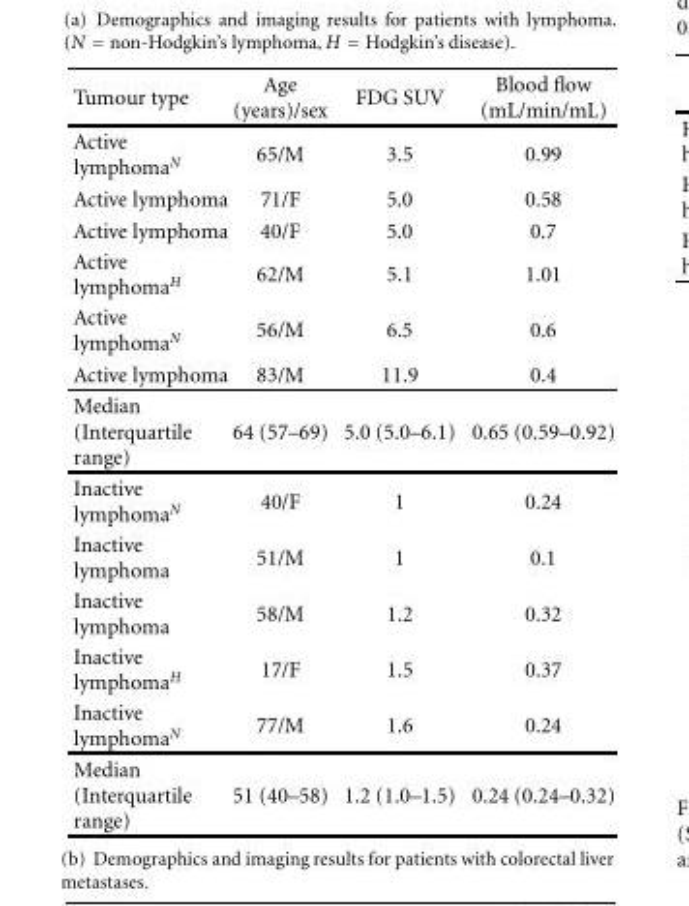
<table><thead><tr><td>Tumour type</td><td>Age (years)/sex</td><td>FDG SUV</td><td>Blood flow (mL/min/mL)</td></tr></thead><tbody><tr><td>Active lymphoma<sup>N</sup></td><td>65/M</td><td>3.5</td><td>0.99</td></tr><tr><td>Active lymphoma</td><td>71/F</td><td>5.0</td><td>0.58</td></tr><tr><td>Active lymphoma</td><td>40/F</td><td>5.0</td><td>0.7</td></tr><tr><td>Active lymphoma<sup>H</sup></td><td>62/M</td><td>5.1</td><td>1.01</td></tr><tr><td>Active lymphoma<sup>N</sup></td><td>56/M</td><td>6.5</td><td>0.6</td></tr><tr><td>Active lymphoma</td><td>83/M</td><td>11.9</td><td>0.4</td></tr><tr><td>Median (Interquartile range)</td><td>64 (57–69)</td><td>5.0 (5.0–6.1)</td><td>0.65 (0.59–0.92)</td></tr><tr><td>Inactive lymphoma<sup>N</sup></td><td>40/F</td><td>1</td><td>0.24</td></tr><tr><td>Inactive lymphoma</td><td>51/M</td><td>1</td><td>0.1</td></tr><tr><td>Inactive lymphoma</td><td>58/M</td><td>1.2</td><td>0.32</td></tr><tr><td>Inactive lymphoma<sup>H</sup></td><td>17/F</td><td>1.5</td><td>0.37</td></tr><tr><td>Inactive lymphoma<sup>N</sup></td><td>77/M</td><td>1.6</td><td>0.24</td></tr><tr><td>Median (Interquartile range)</td><td>51 (40–58)</td><td>1.2 (1.0–1.5)</td><td>0.24 (0.24–0.32)</td></tr></tbody></table>